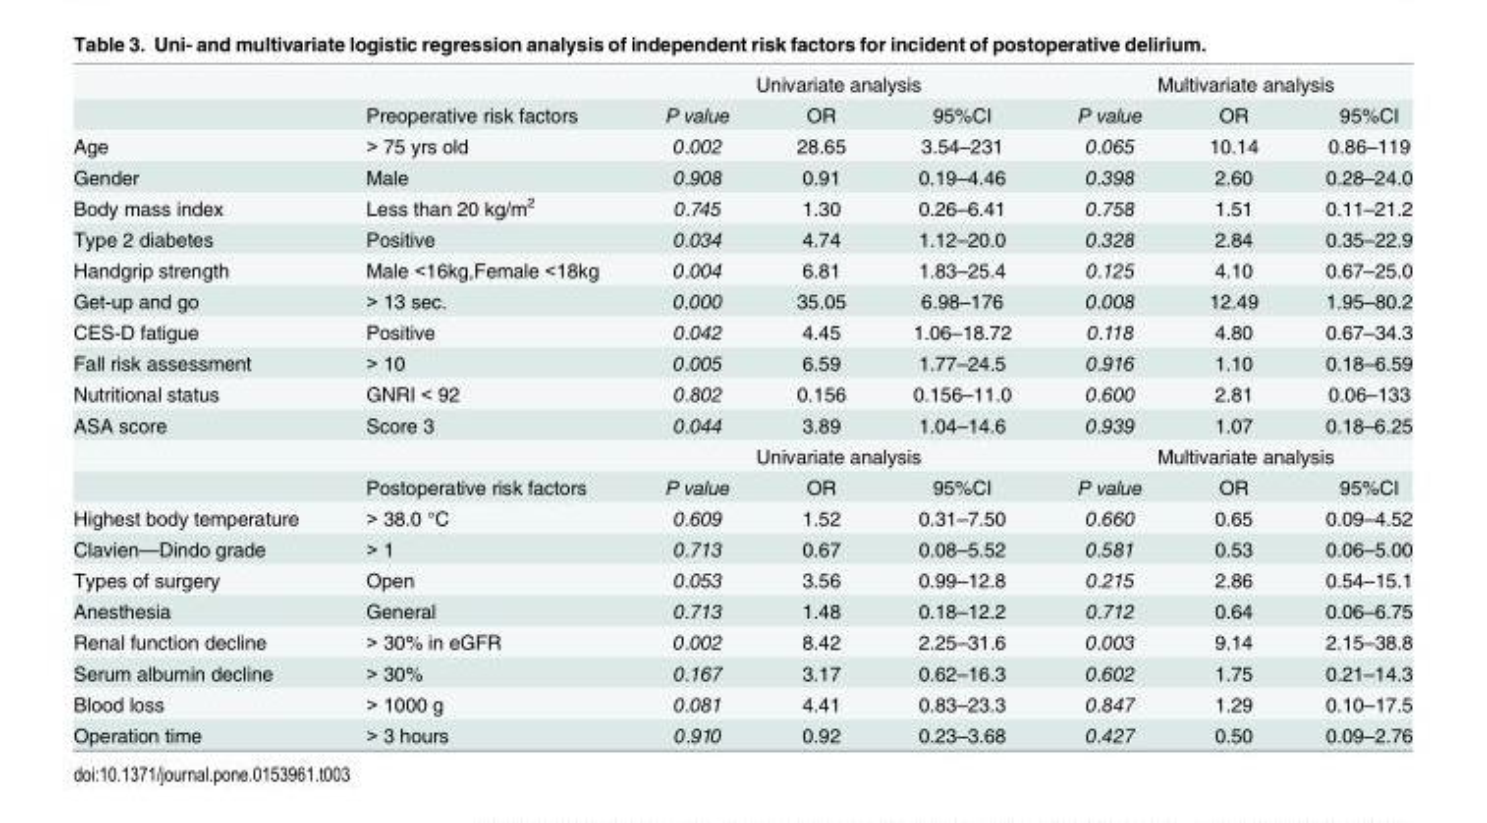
<table><thead><tr><td rowspan="2"></td><td rowspan="2">Preoperative risk factors</td><td colspan="3">Univariate analysis</td><td colspan="3">Multivariate analysis</td></tr><tr><td>P value</td><td>OR</td><td>95%CI</td><td>P value</td><td>OR</td><td>95%CI</td></tr></thead><tbody><tr><td>Age</td><td>&gt; 75 yrs old</td><td>0.002</td><td>28.65</td><td>3.54–231</td><td>0.065</td><td>10.14</td><td>0.86–119</td></tr><tr><td>Gender</td><td>Male</td><td>0.908</td><td>0.91</td><td>0.19–4.46</td><td>0.398</td><td>2.60</td><td>0.28–24.0</td></tr><tr><td>Body mass index</td><td>Less than 20 kg/m<sup>2</sup></td><td>0.745</td><td>1.30</td><td>0.26–6.41</td><td>0.758</td><td>1.51</td><td>0.11–21.2</td></tr><tr><td>Type 2 diabetes</td><td>Positive</td><td>0.034</td><td>4.74</td><td>1.12–20.0</td><td>0.328</td><td>2.84</td><td>0.35–22.9</td></tr><tr><td>Handgrip strength</td><td>Male &lt;16kg,Female &lt;18kg</td><td>0.004</td><td>6.81</td><td>1.83–25.4</td><td>0.125</td><td>4.10</td><td>0.67–25.0</td></tr><tr><td>Get-up and go</td><td>&gt; 13 sec.</td><td>0.000</td><td>35.05</td><td>6.98–176</td><td>0.008</td><td>12.49</td><td>1.95–80.2</td></tr><tr><td>CES-D fatigue</td><td>Positive</td><td>0.042</td><td>4.45</td><td>1.06–18.72</td><td>0.118</td><td>4.80</td><td>0.67–34.3</td></tr><tr><td>Fall risk assessment</td><td>&gt; 10</td><td>0.005</td><td>6.59</td><td>1.77–24.5</td><td>0.916</td><td>1.10</td><td>0.18–6.59</td></tr><tr><td>Nutritional status</td><td>GNRI &lt; 92</td><td>0.802</td><td>0.156</td><td>0.156–11.0</td><td>0.600</td><td>2.81</td><td>0.06–133</td></tr><tr><td rowspan="3">ASA score</td><td>Score 3</td><td>0.044</td><td>3.89</td><td>1.04–14.6</td><td>0.939</td><td>1.07</td><td>0.18–6.25</td></tr><tr><td></td><td colspan="3">Univariate analysis</td><td colspan="3">Multivariate analysis</td></tr><tr><td>Postoperative risk factors</td><td>P value</td><td>OR</td><td>95%CI</td><td>P value</td><td>OR</td><td>95%CI</td></tr><tr><td>Highest body temperature</td><td>&gt; 38.0 °C</td><td>0.609</td><td>1.52</td><td>0.31–7.50</td><td>0.660</td><td>0.65</td><td>0.09–4.52</td></tr><tr><td>Clavien—Dindo grade</td><td>&gt; 1</td><td>0.713</td><td>0.67</td><td>0.08–5.52</td><td>0.581</td><td>0.53</td><td>0.06–5.00</td></tr><tr><td>Types of surgery</td><td>Open</td><td>0.053</td><td>3.56</td><td>0.99–12.8</td><td>0.215</td><td>2.86</td><td>0.54–15.1</td></tr><tr><td>Anesthesia</td><td>General</td><td>0.713</td><td>1.48</td><td>0.18–12.2</td><td>0.712</td><td>0.64</td><td>0.06–6.75</td></tr><tr><td>Renal function decline</td><td>&gt; 30% in eGFR</td><td>0.002</td><td>8.42</td><td>2.25–31.6</td><td>0.003</td><td>9.14</td><td>2.15–38.8</td></tr><tr><td>Serum albumin decline</td><td>&gt; 30%</td><td>0.167</td><td>3.17</td><td>0.62–16.3</td><td>0.602</td><td>1.75</td><td>0.21–14.3</td></tr><tr><td>Blood loss</td><td>&gt; 1000 g</td><td>0.081</td><td>4.41</td><td>0.83–23.3</td><td>0.847</td><td>1.29</td><td>0.10–17.5</td></tr><tr><td>Operation time</td><td>&gt; 3 hours</td><td>0.910</td><td>0.92</td><td>0.23–3.68</td><td>0.427</td><td>0.50</td><td>0.09–2.76</td></tr></tbody></table>